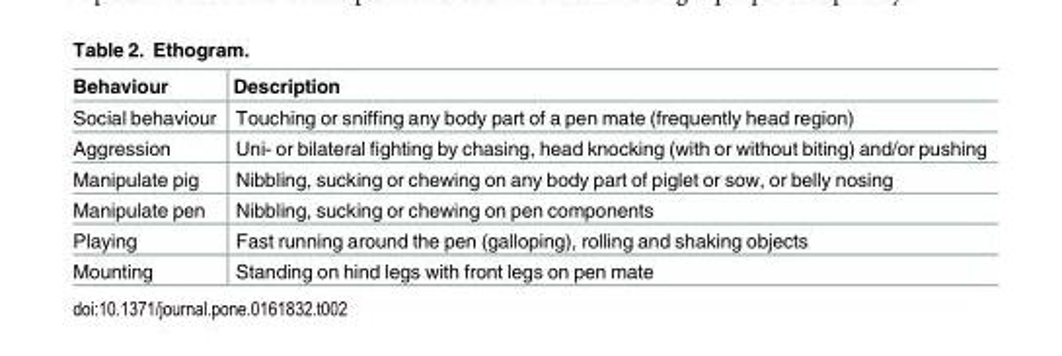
<table><thead><tr><td>Behaviour</td><td>Description</td></tr></thead><tbody><tr><td>Social behaviour</td><td>Touching or sniffing any body part of a pen mate (frequently head region)</td></tr><tr><td>Aggression</td><td>Uni- or bilateral fighting by chasing, head knocking (with or without biting) and/or pushing</td></tr><tr><td>Manipulate pig</td><td>Nibbling, sucking or chewing on any body part of piglet or sow, or belly nosing</td></tr><tr><td>Manipulate pen</td><td>Nibbling, sucking or chewing on pen components</td></tr><tr><td>Playing</td><td>Fast running around the pen (galloping), rolling and shaking objects</td></tr><tr><td>Mounting</td><td>Standing on hind legs with front legs on pen mate</td></tr></tbody></table>